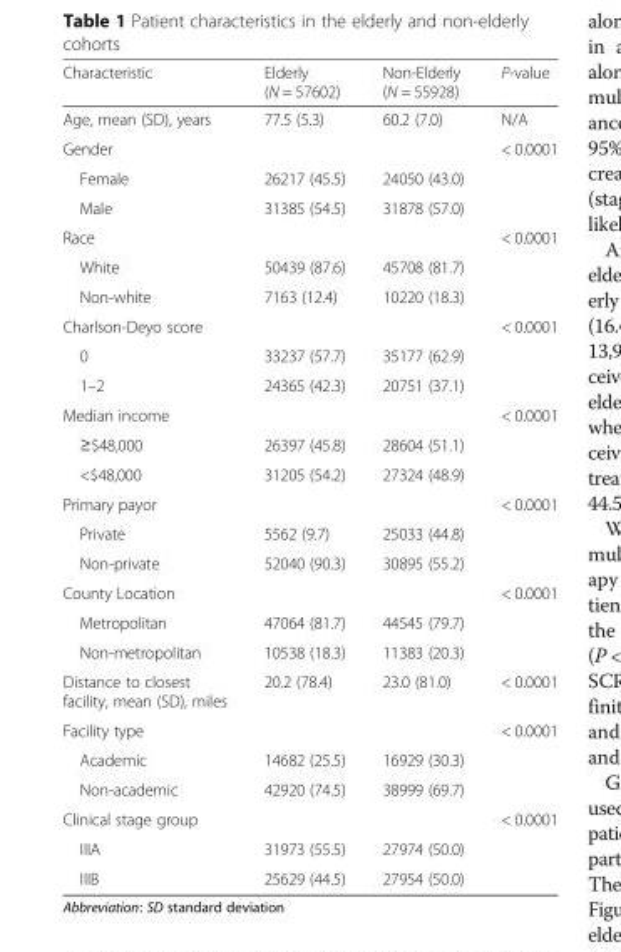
<table><thead><tr><td>Characteristic</td><td>Elderly (N = 57602)</td><td>Non-Elderly (N = 55928)</td><td>P-value</td></tr></thead><tbody><tr><td>Age, mean (SD), years</td><td>77.5 (5.3)</td><td>60.2 (7.0)</td><td>N/A</td></tr><tr><td>Gender</td><td></td><td></td><td>&lt; 0.0001</td></tr><tr><td>Female</td><td>26217 (45.5)</td><td>24050 (43.0)</td><td></td></tr><tr><td>Male</td><td>31385 (54.5)</td><td>31878 (57.0)</td><td></td></tr><tr><td>Race</td><td></td><td></td><td>&lt; 0.0001</td></tr><tr><td>White</td><td>50439 (87.6)</td><td>45708 (81.7)</td><td></td></tr><tr><td>Non-white</td><td>7163 (12.4)</td><td>10220 (18.3)</td><td></td></tr><tr><td>Charlson-Deyo score</td><td></td><td></td><td>&lt; 0.0001</td></tr><tr><td>0</td><td>33237 (57.7)</td><td>35177 (62.9)</td><td></td></tr><tr><td>1–2</td><td>24365 (42.3)</td><td>20751 (37.1)</td><td></td></tr><tr><td>Median income</td><td></td><td></td><td>&lt; 0.0001</td></tr><tr><td>≥$48,000</td><td>26397 (45.8)</td><td>28604 (51.1)</td><td></td></tr><tr><td>&lt;$48,000</td><td>31205 (54.2)</td><td>27324 (48.9)</td><td></td></tr><tr><td>Primary payor</td><td></td><td></td><td>&lt; 0.0001</td></tr><tr><td>Private</td><td>5562 (9.7)</td><td>25033 (44.8)</td><td></td></tr><tr><td>Non-private</td><td>52040 (90.3)</td><td>30895 (55.2)</td><td></td></tr><tr><td>County Location</td><td></td><td></td><td>&lt; 0.0001</td></tr><tr><td>Metropolitan</td><td>47064 (81.7)</td><td>44545 (79.7)</td><td></td></tr><tr><td>Non-metropolitan</td><td>10538 (18.3)</td><td>11383 (20.3)</td><td></td></tr><tr><td>Distance to closest facility, mean (SD), miles</td><td>20.2 (78.4)</td><td>23.0 (81.0)</td><td>&lt; 0.0001</td></tr><tr><td>Facility type</td><td></td><td></td><td>&lt; 0.0001</td></tr><tr><td>Academic</td><td>14682 (25.5)</td><td>16929 (30.3)</td><td></td></tr><tr><td>Non-academic</td><td>42920 (74.5)</td><td>38999 (69.7)</td><td></td></tr><tr><td>Clinical stage group</td><td></td><td></td><td>&lt; 0.0001</td></tr><tr><td>IIIA</td><td>31973 (55.5)</td><td>27974 (50.0)</td><td></td></tr><tr><td>IIIB</td><td>25629 (44.5)</td><td>27954 (50.0)</td><td></td></tr></tbody></table>